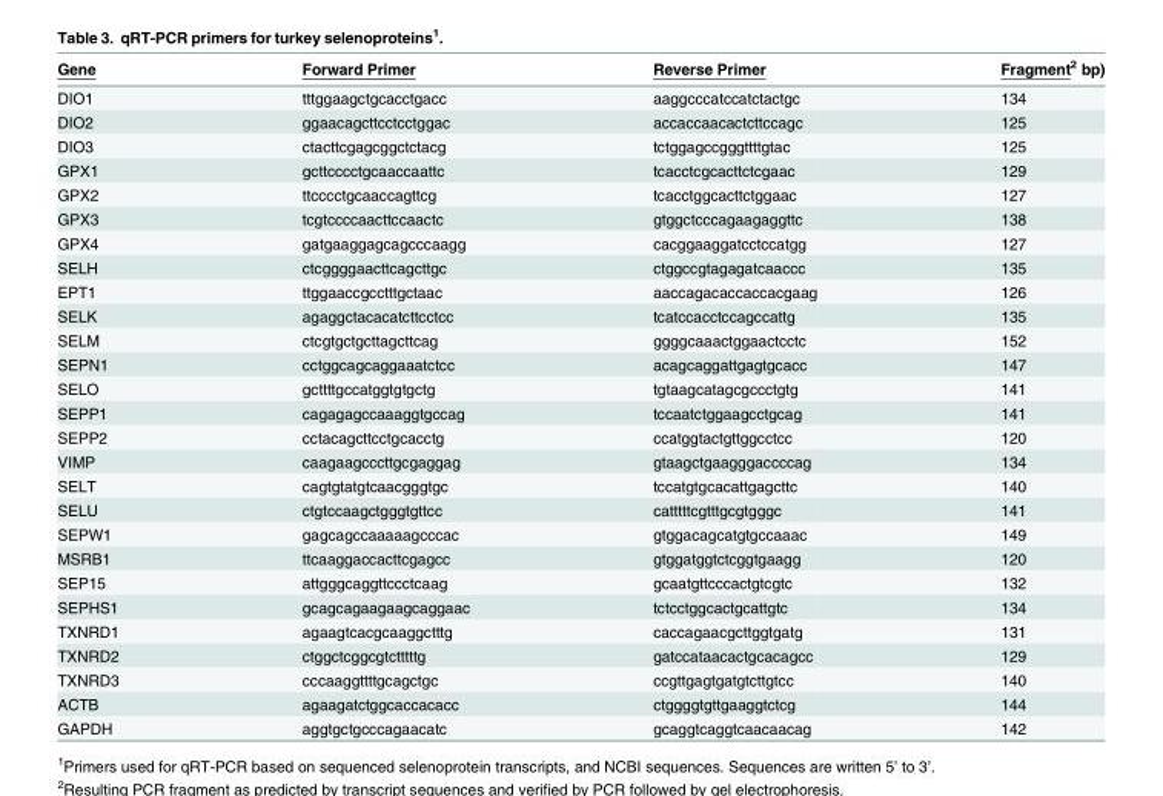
<table><thead><tr><td>Gene</td><td>Forward Primer</td><td>Reverse Primer</td><td>Fragment<sup>2</sup> bp)</td></tr></thead><tbody><tr><td>DIO1</td><td>tttggaagctgcacctgacc</td><td>aaggcccatccatctactgc</td><td>134</td></tr><tr><td>DIO2</td><td>ggaacagcttcctcctggac</td><td>accaccaacactcttccagc</td><td>125</td></tr><tr><td>DIO3</td><td>ctacttcgagcggctctacg</td><td>tctggagccgggttttgtac</td><td>125</td></tr><tr><td>GPX1</td><td>gcttcccctgcaaccaattc</td><td>tcacctcgcacttctcgaac</td><td>129</td></tr><tr><td>GPX2</td><td>ttcccctgcaaccagttcg</td><td>tcacctggcacttctggaac</td><td>127</td></tr><tr><td>GPX3</td><td>tcgtccccaacttccaactc</td><td>gtggctcccagaagaggttc</td><td>138</td></tr><tr><td>GPX4</td><td>gatgaaggagcagcccaagg</td><td>cacggaaggatcctccatgg</td><td>127</td></tr><tr><td>SELH</td><td>ctcggggaacttcagcttgc</td><td>ctggccgtagagatcaaccc</td><td>135</td></tr><tr><td>EPT1</td><td>ttggaaccgcctttgctaac</td><td>aaccagacaccaccacgaag</td><td>126</td></tr><tr><td>SELK</td><td>agaggctacacatcttcctcc</td><td>tcatccacctccagccattg</td><td>135</td></tr><tr><td>SELM</td><td>ctcgtgctgcttagcttcag</td><td>ggggcaaactggaactcctc</td><td>152</td></tr><tr><td>SEPN1</td><td>cctggcagcaggaaatctcc</td><td>acagcaggattgagtgcacc</td><td>147</td></tr><tr><td>SELO</td><td>gcttttgccatggtgtgctg</td><td>tgtaagcatagcgccctgtg</td><td>141</td></tr><tr><td>SEPP1</td><td>cagagagccaaaggtgccag</td><td>tccaatctggaagcctgcag</td><td>141</td></tr><tr><td>SEPP2</td><td>cctacagcttcctgcacctg</td><td>ccatggtactgttggcctcc</td><td>120</td></tr><tr><td>VIMP</td><td>caagaagcccttgcgaggag</td><td>gtaagctgaagggaccccag</td><td>134</td></tr><tr><td>SELT</td><td>cagtgtatgtcaacgggtgc</td><td>tccatgtgcacattgagcttc</td><td>140</td></tr><tr><td>SELU</td><td>ctgtccaagctgggtgttcc</td><td>catttttcgtttgcgtgggc</td><td>141</td></tr><tr><td>SEPW1</td><td>gagcagccaaaaagcccac</td><td>gtggacagcatgtgccaaac</td><td>149</td></tr><tr><td>MSRB1</td><td>ttcaaggaccacttcgagcc</td><td>gtggatggtctcggtgaagg</td><td>120</td></tr><tr><td>SEP15</td><td>attgggcaggttccctcaag</td><td>gcaatgttcccactgtcgtc</td><td>132</td></tr><tr><td>SEPHS1</td><td>gcagcagaagaagcaggaac</td><td>tctcctggcactgcattgtc</td><td>134</td></tr><tr><td>TXNRD1</td><td>agaagtcacgcaaggctttg</td><td>caccagaacgcttggtgatg</td><td>131</td></tr><tr><td>TXNRD2</td><td>ctggctcggcgtctttttg</td><td>gatccataacactgcacagcc</td><td>129</td></tr><tr><td>TXNRD3</td><td>cccaaggttttgcagctgc</td><td>ccgttgagtgatgtcttgtcc</td><td>140</td></tr><tr><td>ACTB</td><td>agaagatctggcaccacacc</td><td>ctggggtgttgaaggtctcg</td><td>144</td></tr><tr><td>GAPDH</td><td>aggtgctgcccagaacatc</td><td>gcaggtcaggtcaacaacag</td><td>142</td></tr></tbody></table>